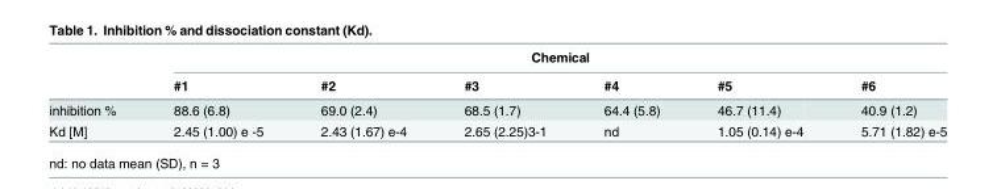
<table><thead><tr><td rowspan="2"></td><td colspan="6">Chemical</td></tr><tr><td>#1</td><td>#2</td><td>#3</td><td>#4</td><td>#5</td><td>#6</td></tr></thead><tbody><tr><td>inhibition %</td><td>88.6 (6.8)</td><td>69.0 (2.4)</td><td>68.5 (1.7)</td><td>64.4 (5.8)</td><td>46.7 (11.4)</td><td>40.9 (1.2)</td></tr><tr><td>Kd [M]</td><td>2.45 (1.00) e -5</td><td>2.43 (1.67) e-4</td><td>2.65 (2.25)3-1</td><td>nd</td><td>1.05 (0.14) e-4</td><td>5.71 (1.82) e-5</td></tr></tbody></table>